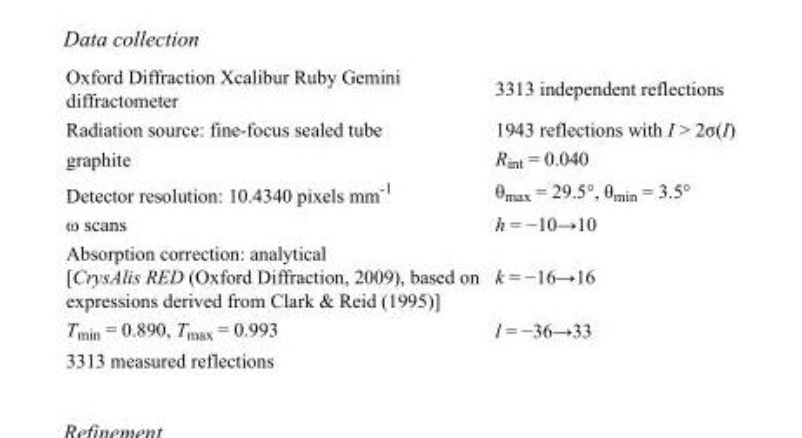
<table><tbody><tr><td>Oxford Diffraction Xcalibur Ruby Gemini diffractometer</td><td>3313 independent reflections</td></tr><tr><td>Radiation source: fine-focus sealed tube</td><td>1943 reflections with I &gt; 2σ(I)</td></tr><tr><td>graphite</td><td>R<sub>int</sub> = 0.040</td></tr><tr><td>Detector resolution: 10.4340 pixels mm<sup>-1</sup></td><td>θ<sub>max</sub> = 29.5°, θ<sub>min</sub> = 3.5°</td></tr><tr><td>ω scans</td><td>h = −10→10</td></tr><tr><td>Absorption correction: analytical [CrysAlis RED (Oxford Diffraction, 2009), based on expressions derived from Clark &amp; Reid (1995)]</td><td>k = −16→16</td></tr><tr><td>T<sub>min</sub> = 0.890, T<sub>max</sub> = 0.993</td><td>l = −36→33</td></tr><tr><td>3313 measured reflections</td><td></td></tr></tbody></table>